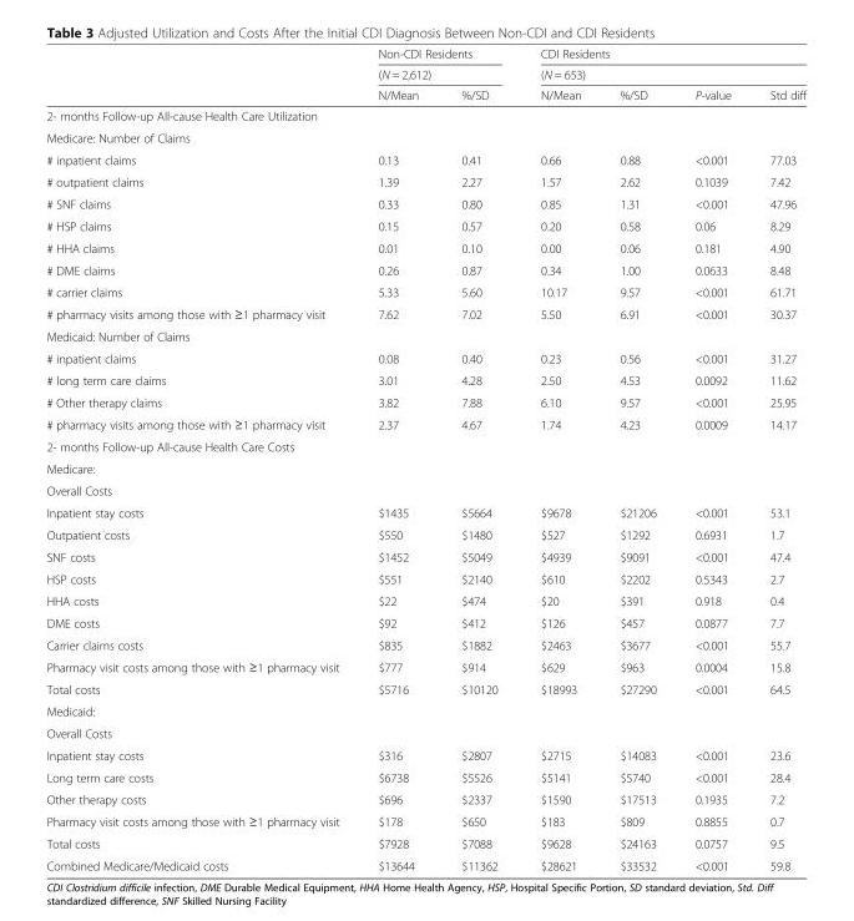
<table><thead><tr><td rowspan="3"></td><td rowspan="2" colspan="2">Non-CDI Residents (N = 2,612)</td><td rowspan="2" colspan="4">CDI Residents (N = 653)</td></tr><tr></tr><tr><td>N/Mean</td><td>%/SD</td><td>N/Mean</td><td>%/SD</td><td>P-value</td><td>Std diff</td></tr></thead><tbody><tr><td colspan="7">2- months Follow-up All-cause Health Care Utilization</td></tr><tr><td colspan="7">Medicare: Number of Claims</td></tr><tr><td># inpatient claims</td><td>0.13</td><td>0.41</td><td>0.66</td><td>0.88</td><td>&lt;0.001</td><td>77.03</td></tr><tr><td># outpatient claims</td><td>1.39</td><td>2.27</td><td>1.57</td><td>2.62</td><td>0.1039</td><td>7.42</td></tr><tr><td># SNF claims</td><td>0.33</td><td>0.80</td><td>0.85</td><td>1.31</td><td>&lt;0.001</td><td>47.96</td></tr><tr><td># HSP claims</td><td>0.15</td><td>0.57</td><td>0.20</td><td>0.58</td><td>0.06</td><td>8.29</td></tr><tr><td># HHA claims</td><td>0.01</td><td>0.10</td><td>0.00</td><td>0.06</td><td>0.181</td><td>4.90</td></tr><tr><td># DME claims</td><td>0.26</td><td>0.87</td><td>0.34</td><td>1.00</td><td>0.0633</td><td>8.48</td></tr><tr><td># carrier claims</td><td>5.33</td><td>5.60</td><td>10.17</td><td>9.57</td><td>&lt;0.001</td><td>61.71</td></tr><tr><td># pharmacy visits among those with ≥1 pharmacy visit</td><td>7.62</td><td>7.02</td><td>5.50</td><td>6.91</td><td>&lt;0.001</td><td>30.37</td></tr><tr><td colspan="7">Medicaid: Number of Claims</td></tr><tr><td># inpatient claims</td><td>0.08</td><td>0.40</td><td>0.23</td><td>0.56</td><td>&lt;0.001</td><td>31.27</td></tr><tr><td># long term care claims</td><td>3.01</td><td>4.28</td><td>2.50</td><td>4.53</td><td>0.0092</td><td>11.62</td></tr><tr><td># Other therapy claims</td><td>3.82</td><td>7.88</td><td>6.10</td><td>9.57</td><td>&lt;0.001</td><td>25.95</td></tr><tr><td># pharmacy visits among those with ≥1 pharmacy visit</td><td>2.37</td><td>4.67</td><td>1.74</td><td>4.23</td><td>0.0009</td><td>14.17</td></tr><tr><td colspan="7">2- months Follow-up All-cause Health Care Costs</td></tr><tr><td colspan="7">Medicare:</td></tr><tr><td colspan="7">Overall Costs</td></tr><tr><td>Inpatient stay costs</td><td>$1435</td><td>$5664</td><td>$9678</td><td>$21206</td><td>&lt;0.001</td><td>53.1</td></tr><tr><td>Outpatient costs</td><td>$550</td><td>$1480</td><td>$527</td><td>$1292</td><td>0.6931</td><td>1.7</td></tr><tr><td>SNF costs</td><td>$1452</td><td>$5049</td><td>$4939</td><td>$9091</td><td>&lt;0.001</td><td>47.4</td></tr><tr><td>HSP costs</td><td>$551</td><td>$2140</td><td>$610</td><td>$2202</td><td>0.5343</td><td>2.7</td></tr><tr><td>HHA costs</td><td>$22</td><td>$474</td><td>$20</td><td>$391</td><td>0.918</td><td>0.4</td></tr><tr><td>DME costs</td><td>$92</td><td>$412</td><td>$126</td><td>$457</td><td>0.0877</td><td>7.7</td></tr><tr><td>Carrier claims costs</td><td>$835</td><td>$1882</td><td>$2463</td><td>$3677</td><td>&lt;0.001</td><td>55.7</td></tr><tr><td>Pharmacy visit costs among those with ≥1 pharmacy visit</td><td>$777</td><td>$914</td><td>$629</td><td>$963</td><td>0.0004</td><td>15.8</td></tr><tr><td>Total costs</td><td>$5716</td><td>$10120</td><td>$18993</td><td>$27290</td><td>&lt;0.001</td><td>64.5</td></tr><tr><td colspan="7">Medicaid:</td></tr><tr><td colspan="7">Overall Costs</td></tr><tr><td>Inpatient stay costs</td><td>$316</td><td>$2807</td><td>$2715</td><td>$14083</td><td>&lt;0.001</td><td>23.6</td></tr><tr><td>Long term care costs</td><td>$6738</td><td>$5526</td><td>$5141</td><td>$5740</td><td>&lt;0.001</td><td>28.4</td></tr><tr><td>Other therapy costs</td><td>$696</td><td>$2337</td><td>$1590</td><td>$17513</td><td>0.1935</td><td>7.2</td></tr><tr><td>Pharmacy visit costs among those with ≥1 pharmacy visit</td><td>$178</td><td>$650</td><td>$183</td><td>$809</td><td>0.8855</td><td>0.7</td></tr><tr><td>Total costs</td><td>$7928</td><td>$7088</td><td>$9628</td><td>$24163</td><td>0.0757</td><td>9.5</td></tr><tr><td>Combined Medicare/Medicaid costs</td><td>$13644</td><td>$11362</td><td>$28621</td><td>$33532</td><td>&lt;0.001</td><td>59.8</td></tr></tbody></table>